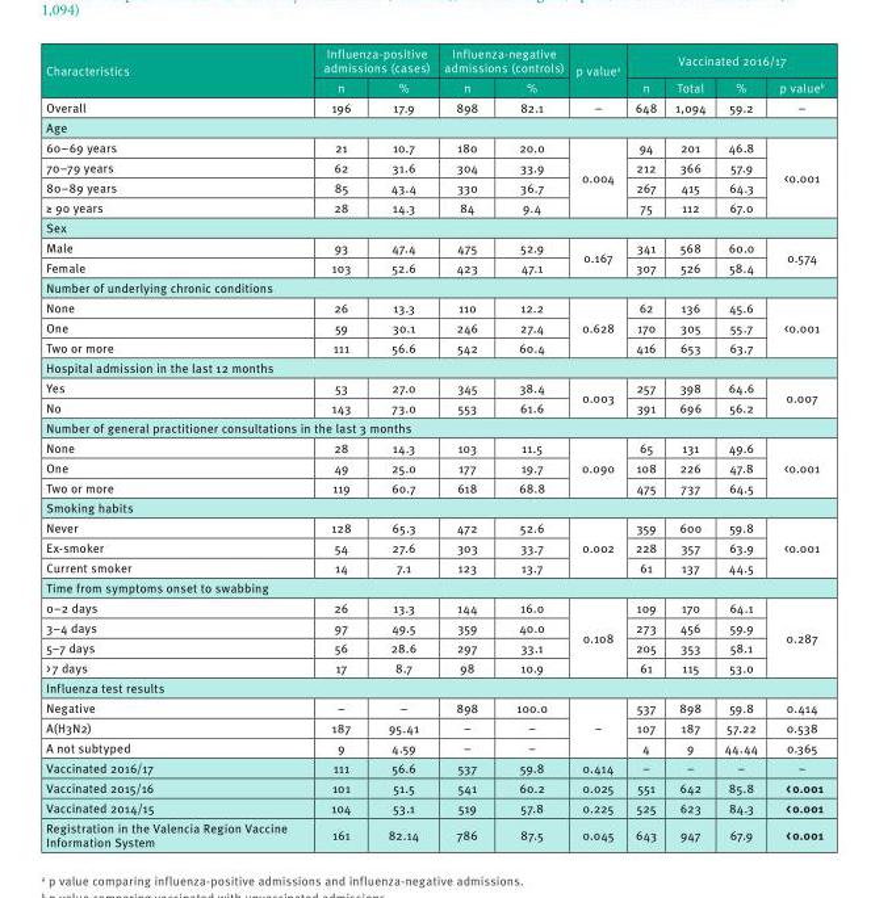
<table><thead><tr><td rowspan="2">Characteristics</td><td colspan="2">Influenza-positive admissions (cases)</td><td colspan="2">Influenza-negative admissions (controls)</td><td rowspan="2">p value<sup>a</sup></td><td colspan="4">Vaccinated 2016/17</td></tr><tr><td>n</td><td>%</td><td>n</td><td>%</td><td>n</td><td>Total</td><td>%</td><td>p value<sup>b</sup></td></tr></thead><tbody><tr><td>Overall</td><td>196</td><td>17.9</td><td>898</td><td>82.1</td><td>–</td><td>648</td><td>1,094</td><td>59.2</td><td>–</td></tr><tr><td colspan="10">Age</td></tr><tr><td>60–69 years</td><td>21</td><td>10.7</td><td>180</td><td>20.0</td><td rowspan="4">0.004</td><td>94</td><td>201</td><td>46.8</td><td rowspan="4">&lt;0.001</td></tr><tr><td>70–79 years</td><td>62</td><td>31.6</td><td>304</td><td>33.9</td><td>212</td><td>366</td><td>57.9</td></tr><tr><td>80–89 years</td><td>85</td><td>43.4</td><td>330</td><td>36.7</td><td>267</td><td>415</td><td>64.3</td></tr><tr><td>≥ 90 years</td><td>28</td><td>14.3</td><td>84</td><td>9.4</td><td>75</td><td>112</td><td>67.0</td></tr><tr><td colspan="10">Sex</td></tr><tr><td>Male</td><td>93</td><td>47.4</td><td>475</td><td>52.9</td><td rowspan="2">0.167</td><td>341</td><td>568</td><td>60.0</td><td rowspan="2">0.574</td></tr><tr><td>Female</td><td>103</td><td>52.6</td><td>423</td><td>47.1</td><td>307</td><td>526</td><td>58.4</td></tr><tr><td colspan="10">Number of underlying chronic conditions</td></tr><tr><td>None</td><td>26</td><td>13.3</td><td>110</td><td>12.2</td><td rowspan="3">0.628</td><td>62</td><td>136</td><td>45.6</td><td rowspan="3">&lt;0.001</td></tr><tr><td>One</td><td>59</td><td>30.1</td><td>246</td><td>27.4</td><td>170</td><td>305</td><td>55.7</td></tr><tr><td>Two or more</td><td>111</td><td>56.6</td><td>542</td><td>60.4</td><td>416</td><td>653</td><td>63.7</td></tr><tr><td colspan="10">Hospital admission in the last 12 months</td></tr><tr><td>Yes</td><td>53</td><td>27.0</td><td>345</td><td>38.4</td><td rowspan="2">0.003</td><td>257</td><td>398</td><td>64.6</td><td rowspan="2">0.007</td></tr><tr><td>No</td><td>143</td><td>73.0</td><td>553</td><td>61.6</td><td>391</td><td>696</td><td>56.2</td></tr><tr><td colspan="10">Number of general practitioner consultations in the last 3 months</td></tr><tr><td>None</td><td>28</td><td>14.3</td><td>103</td><td>11.5</td><td rowspan="3">0.090</td><td>65</td><td>131</td><td>49.6</td><td rowspan="3">&lt;0.001</td></tr><tr><td>One</td><td>49</td><td>25.0</td><td>177</td><td>19.7</td><td>108</td><td>226</td><td>47.8</td></tr><tr><td>Two or more</td><td>119</td><td>60.7</td><td>618</td><td>68.8</td><td>475</td><td>737</td><td>64.5</td></tr><tr><td colspan="10">Smoking habits</td></tr><tr><td>Never</td><td>128</td><td>65.3</td><td>472</td><td>52.6</td><td rowspan="3">0.002</td><td>359</td><td>600</td><td>59.8</td><td rowspan="3">&lt;0.001</td></tr><tr><td>Ex-smoker</td><td>54</td><td>27.6</td><td>303</td><td>33.7</td><td>228</td><td>357</td><td>63.9</td></tr><tr><td>Current smoker</td><td>14</td><td>7.1</td><td>123</td><td>13.7</td><td>61</td><td>137</td><td>44.5</td></tr><tr><td colspan="10">Time from symptoms onset to swabbing</td></tr><tr><td>0–2 days</td><td>26</td><td>13.3</td><td>144</td><td>16.0</td><td rowspan="4">0.108</td><td>109</td><td>170</td><td>64.1</td><td rowspan="4">0.287</td></tr><tr><td>3–4 days</td><td>97</td><td>49.5</td><td>359</td><td>40.0</td><td>273</td><td>456</td><td>59.9</td></tr><tr><td>5–7 days</td><td>56</td><td>28.6</td><td>297</td><td>33.1</td><td>205</td><td>353</td><td>58.1</td></tr><tr><td>&gt; 7 days</td><td>17</td><td>8.7</td><td>98</td><td>10.9</td><td>61</td><td>115</td><td>53.0</td></tr><tr><td colspan="10">Influenza test results</td></tr><tr><td>Negative</td><td>–</td><td>–</td><td>898</td><td>100.0</td><td rowspan="3">–</td><td>537</td><td>898</td><td>59.8</td><td>0.414</td></tr><tr><td>A(H3N2)</td><td>187</td><td>95.41</td><td>–</td><td>–</td><td>107</td><td>187</td><td>57.22</td><td>0.538</td></tr><tr><td>A not subtyped</td><td>9</td><td>4.59</td><td>–</td><td>–</td><td>4</td><td>9</td><td>44.44</td><td>0.365</td></tr><tr><td>Vaccinated 2016/17</td><td>111</td><td>56.6</td><td>537</td><td>59.8</td><td>0.414</td><td>–</td><td>–</td><td>–</td><td>–</td></tr><tr><td>Vaccinated 2015/16</td><td>101</td><td>51.5</td><td>541</td><td>60.2</td><td>0.025</td><td>551</td><td>642</td><td>85.8</td><td>&lt; 0.001</td></tr><tr><td>Vaccinated 2014/15</td><td>104</td><td>53.1</td><td>519</td><td>57.8</td><td>0.225</td><td>525</td><td>623</td><td>84.3</td><td>&lt; 0.001</td></tr><tr><td>Registration in the Valencia Region Vaccine Information System</td><td>161</td><td>82.14</td><td>786</td><td>87.5</td><td>0.045</td><td>643</td><td>947</td><td>67.9</td><td>&lt; 0.001</td></tr></tbody></table>